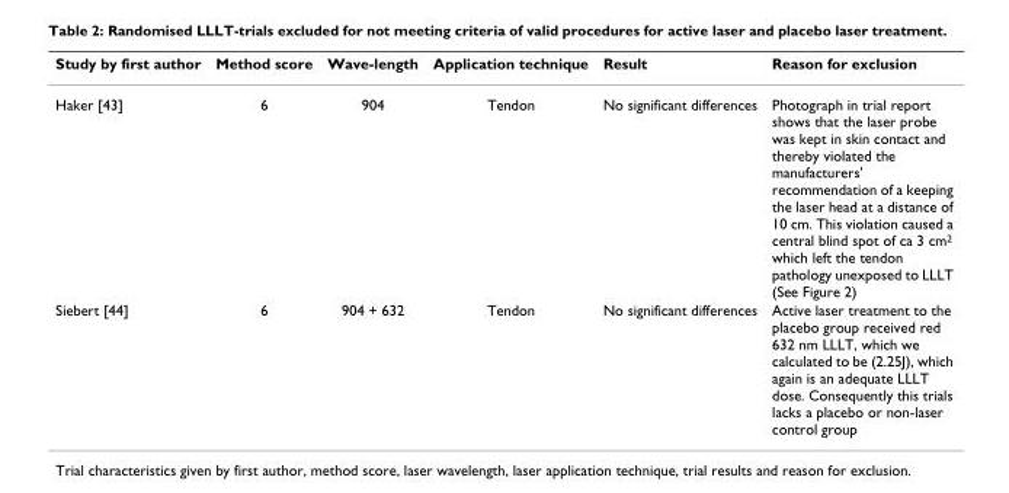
<table><thead><tr><td>Study by first author</td><td>Method score</td><td>Wave-length</td><td>Application technique</td><td>Result</td><td>Reason for exclusion</td></tr></thead><tbody><tr><td>Haker [43]</td><td>6</td><td>904</td><td>Tendon</td><td>No significant differences</td><td>Photograph in trial report shows that the laser probe was kept in skin contact and thereby violated the manufacturers&#x27; recommendation of a keeping the laser head at a distance of 10 cm. This violation caused a central blind spot of ca 3 cm<sup>2</sup> which left the tendon pathology unexposed to LLLT (See Figure 2)</td></tr><tr><td>Siebert [44]</td><td>6</td><td>904 + 632</td><td>Tendon</td><td>No significant differences</td><td>Active laser treatment to the placebo group received red 632 nm LLLT, which we calculated to be (2.25J), which again is an adequate LLLT dose. Consequently this trials lacks a placebo or non-laser control group</td></tr></tbody></table>